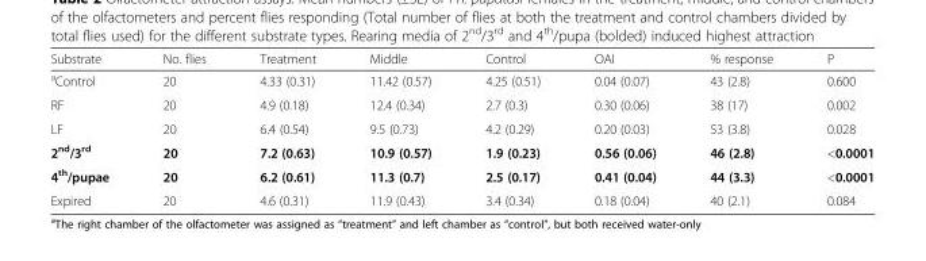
<table><thead><tr><td>Substrate</td><td>No. flies</td><td>Treatment</td><td>Middle</td><td>Control</td><td>OAI</td><td>% response</td><td>P</td></tr></thead><tbody><tr><td><sup>a</sup>Control</td><td>20</td><td>4.33 (0.31)</td><td>11.42 (0.57)</td><td>4.25 (0.51)</td><td>0.04 (0.07)</td><td>43 (2.8)</td><td>0.600</td></tr><tr><td>RF</td><td>20</td><td>4.9 (0.18)</td><td>12.4 (0.34)</td><td>2.7 (0.3)</td><td>0.30 (0.06)</td><td>38 (17)</td><td>0.002</td></tr><tr><td>LF</td><td>20</td><td>6.4 (0.54)</td><td>9.5 (0.73)</td><td>4.2 (0.29)</td><td>0.20 (0.03)</td><td>53 (3.8)</td><td>0.028</td></tr><tr><td>2<sup>nd</sup>/3<sup>rd</sup></td><td>20</td><td>7.2 (0.63)</td><td>10.9 (0.57)</td><td>1.9 (0.23)</td><td>0.56 (0.06)</td><td>46 (2.8)</td><td>&lt;0.0001</td></tr><tr><td>4<sup>th</sup>/pupae</td><td>20</td><td>6.2 (0.61)</td><td>11.3 (0.7)</td><td>2.5 (0.17)</td><td>0.41 (0.04)</td><td>44 (3.3)</td><td>&lt;0.0001</td></tr><tr><td>Expired</td><td>20</td><td>4.6 (0.31)</td><td>11.9 (0.43)</td><td>3.4 (0.34)</td><td>0.18 (0.04)</td><td>40 (2.1)</td><td>0.084</td></tr></tbody></table>